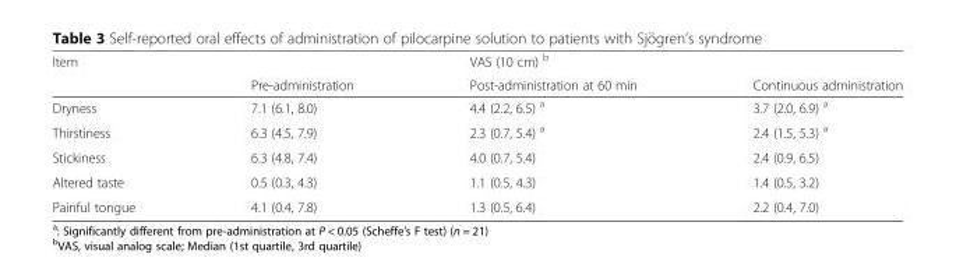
<table><thead><tr><td rowspan="2">Item</td><td rowspan="2">Pre-administration</td><td rowspan="2">VAS (10 cm) <sup>b</sup> Post-administration at 60 min</td><td rowspan="2">Continuous administration</td></tr><tr></tr></thead><tbody><tr><td>Dryness</td><td>7.1 (6.1, 8.0)</td><td>4.4 (2.2, 6.5) <sup>a</sup></td><td>3.7 (2.0, 6.9) <sup>a</sup></td></tr><tr><td>Thirstiness</td><td>6.3 (4.5, 7.9)</td><td>2.3 (0.7, 5.4) <sup>a</sup></td><td>2.4 (1.5, 5.3) <sup>a</sup></td></tr><tr><td>Stickiness</td><td>6.3 (4.8, 7.4)</td><td>4.0 (0.7, 5.4)</td><td>2.4 (0.9, 6.5)</td></tr><tr><td>Altered taste</td><td>0.5 (0.3, 4.3)</td><td>1.1 (0.5, 4.3)</td><td>1.4 (0.5, 3.2)</td></tr><tr><td>Painful tongue</td><td>4.1 (0.4, 7.8)</td><td>1.3 (0.5, 6.4)</td><td>2.2 (0.4, 7.0)</td></tr></tbody></table>